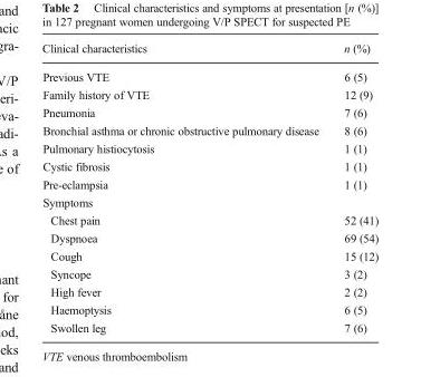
<table><thead><tr><td>Clinical characteristics</td><td>n (%)</td></tr></thead><tbody><tr><td>Previous VTE</td><td>6 (5)</td></tr><tr><td>Family history of VTE</td><td>12 (9)</td></tr><tr><td>Pneumonia</td><td>7 (6)</td></tr><tr><td>Bronchial asthma or chronic obstructive pulmonary disease</td><td>8 (6)</td></tr><tr><td>Pulmonary histiocytosis</td><td>1 (1)</td></tr><tr><td>Cystic fibrosis</td><td>1 (1)</td></tr><tr><td>Pre-eclampsia</td><td>1 (1)</td></tr><tr><td colspan="2">Symptoms</td></tr><tr><td>Chest pain</td><td>52 (41)</td></tr><tr><td>Dyspnoea</td><td>69 (54)</td></tr><tr><td>Cough</td><td>15 (12)</td></tr><tr><td>Syncope</td><td>3 (2)</td></tr><tr><td>High fever</td><td>2 (2)</td></tr><tr><td>Haemoptysis</td><td>6 (5)</td></tr><tr><td>Swollen leg</td><td>7 (6)</td></tr></tbody></table>